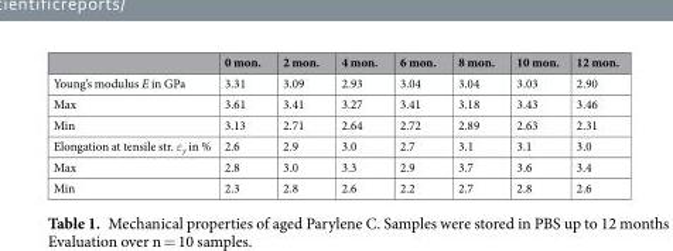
<table><thead><tr><td></td><td>0 mon.</td><td>2 mon.</td><td>4 mon.</td><td>6 mon.</td><td>8 mon.</td><td>10 mon.</td><td>12 mon.</td></tr></thead><tbody><tr><td>Young’s modulus E in GPa</td><td>3.31</td><td>3.09</td><td>2.93</td><td>3.04</td><td>3.04</td><td>3.03</td><td>2.90</td></tr><tr><td>Max</td><td>3.61</td><td>3.41</td><td>3.27</td><td>3.41</td><td>3.18</td><td>3.43</td><td>3.46</td></tr><tr><td>Min</td><td>3.13</td><td>2.71</td><td>2.64</td><td>2.72</td><td>2.89</td><td>2.63</td><td>2.31</td></tr><tr><td>Elongation at tensile str. ε<sub>y</sub> in %</td><td>2.6</td><td>2.9</td><td>3.0</td><td>2.7</td><td>3.1</td><td>3.1</td><td>3.0</td></tr><tr><td>Max</td><td>2.8</td><td>3.0</td><td>3.3</td><td>2.9</td><td>3.7</td><td>3.6</td><td>3.4</td></tr><tr><td>Min</td><td>2.3</td><td>2.8</td><td>2.6</td><td>2.2</td><td>2.7</td><td>2.8</td><td>2.6</td></tr></tbody></table>